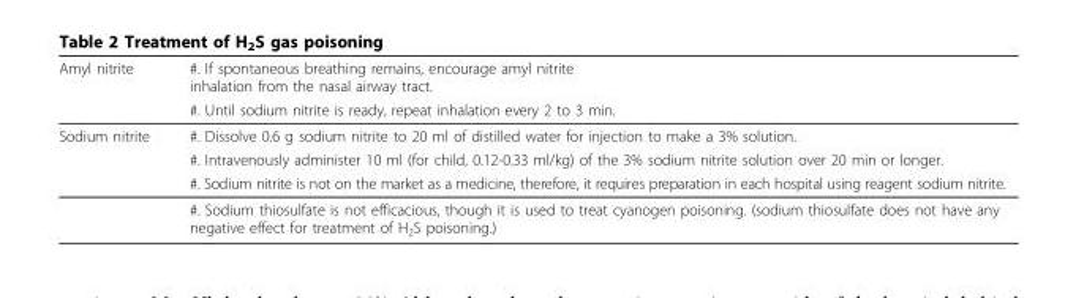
<table><thead><tr><td rowspan="2">Amyl nitrite</td><td rowspan="2">#. If spontaneous breathing remains, encourage amyl nitrite inhalation from the nasal airway tract. #. Until sodium nitrite is ready, repeat inhalation every 2 to 3 min.</td></tr><tr></tr></thead><tbody><tr><td rowspan="4">Sodium nitrite</td><td>#. Dissolve 0.6 g sodium nitrite to 20 ml of distilled water for injection to make a 3% solution.</td></tr><tr><td>#. Intravenously administer 10 ml (for child, 0.12-0.33 ml/kg) of the 3% sodium nitrite solution over 20 min or longer.</td></tr><tr><td>#. Sodium nitrite is not on the market as a medicine, therefore, it requires preparation in each hospital using reagent sodium nitrite.</td></tr><tr><td>#. Sodium thiosulfate is not efficacious, though it is used to treat cyanogen poisoning. (sodium thiosulfate does not have any negative effect for treatment of H<sub>2</sub>S poisoning.)</td></tr></tbody></table>